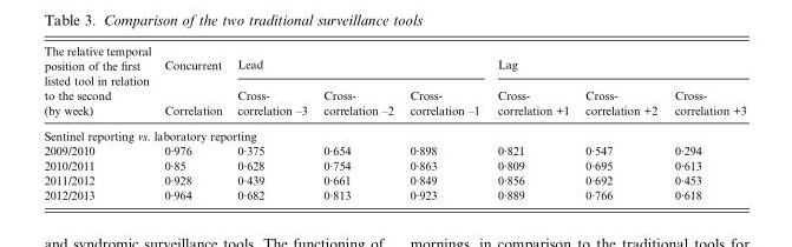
<table><thead><tr><td rowspan="2">The relative temporal position of the first listed tool in relation to the second (by week)</td><td rowspan="2">Concurrent Correlation</td><td colspan="3">Lead</td><td colspan="3">Lag</td></tr><tr><td>Cross- correlation –3</td><td>Cross- correlation –2</td><td>Cross- correlation –1</td><td>Cross- correlation +1</td><td>Cross- correlation +2</td><td>Cross- correlation +3</td></tr></thead><tbody><tr><td colspan="8">Sentinel reporting vs. laboratory reporting</td></tr><tr><td>2009/2010</td><td>0·976</td><td>0·375</td><td>0·654</td><td>0·898</td><td>0·821</td><td>0·547</td><td>0·294</td></tr><tr><td>2010/2011</td><td>0·85</td><td>0·628</td><td>0·754</td><td>0·863</td><td>0·809</td><td>0·695</td><td>0·613</td></tr><tr><td>2011/2012</td><td>0·928</td><td>0·439</td><td>0·661</td><td>0·849</td><td>0·856</td><td>0·692</td><td>0·453</td></tr><tr><td>2012/2013</td><td>0·964</td><td>0·682</td><td>0·813</td><td>0·923</td><td>0·889</td><td>0·766</td><td>0·618</td></tr></tbody></table>